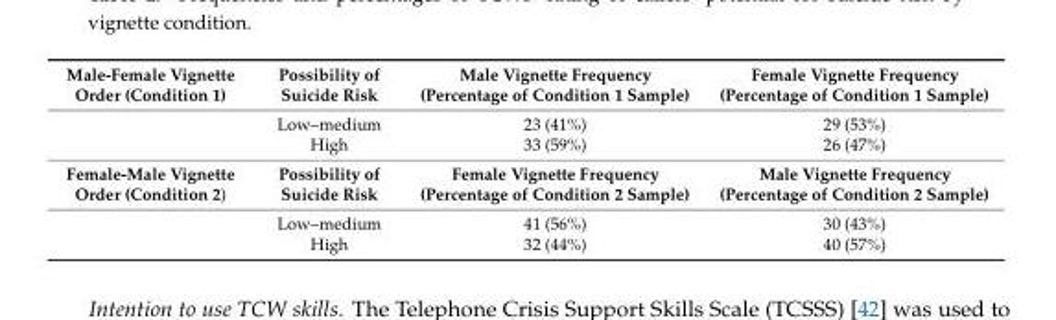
<table><tbody><tr><td rowspan="3">Male-Female Vignette Order (Condition 1)</td><td>Possibility of Suicide Risk</td><td>Male Vignette Frequency (Percentage of Condition 1 Sample)</td><td>Female Vignette Frequency (Percentage of Condition 1 Sample)</td></tr><tr><td>Low–medium</td><td>23 (41%)</td><td>29 (53%)</td></tr><tr><td>High</td><td>33 (59%)</td><td>26 (47%)</td></tr><tr><td rowspan="3">Female-Male Vignette Order (Condition 2)</td><td>Possibility of Suicide Risk</td><td>Female Vignette Frequency (Percentage of Condition 2 Sample)</td><td>Male Vignette Frequency (Percentage of Condition 2 Sample)</td></tr><tr><td>Low–medium</td><td>41 (56%)</td><td>30 (43%)</td></tr><tr><td>High</td><td>32 (44%)</td><td>40 (57%)</td></tr></tbody></table>